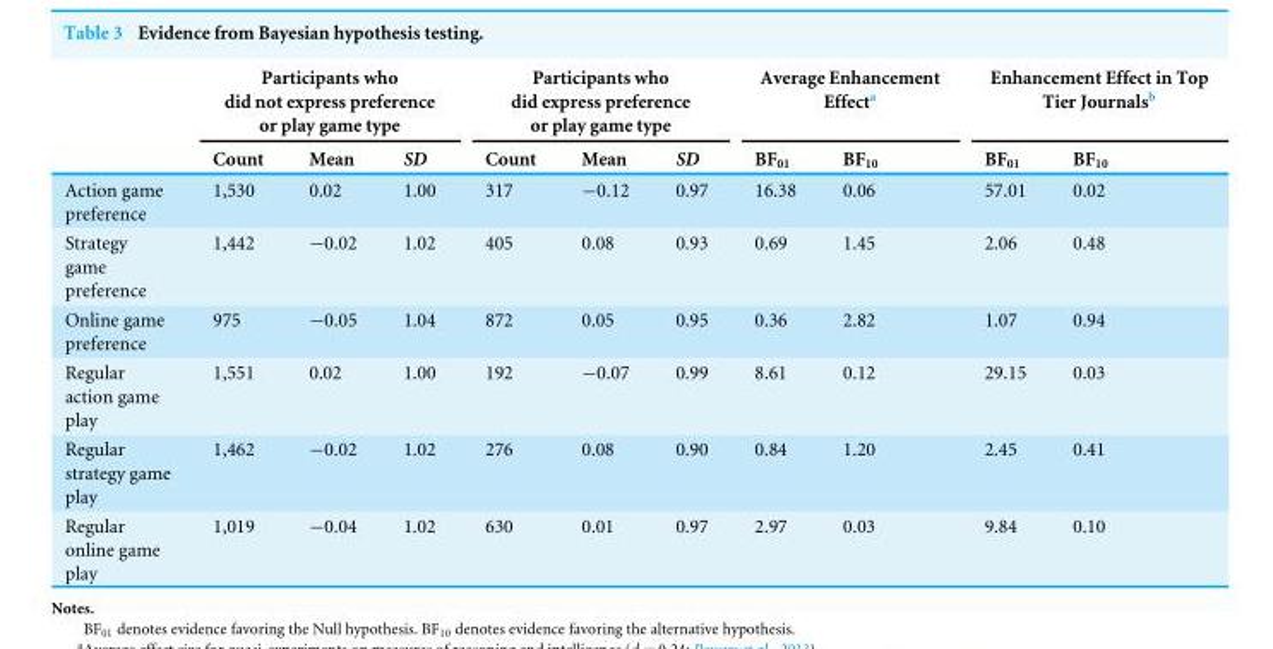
<table><thead><tr><td rowspan="2"></td><td colspan="3">Participants who did not express preference or play game type</td><td colspan="3">Participants who did express preference or play game type</td><td colspan="2">Average Enhancement Effect<sup>a</sup></td><td colspan="2">Enhancement Effect in Top Tier Journals<sup>b</sup></td></tr><tr><td>Count</td><td>Mean</td><td>SD</td><td>Count</td><td>Mean</td><td>SD</td><td>BF<sub>01</sub></td><td>BF<sub>10</sub></td><td>BF<sub>01</sub></td><td>BF<sub>10</sub></td></tr></thead><tbody><tr><td>Action game preference</td><td>1,530</td><td>0.02</td><td>1.00</td><td>317</td><td>−0.12</td><td>0.97</td><td>16.38</td><td>0.06</td><td>57.01</td><td>0.02</td></tr><tr><td>Strategy game preference</td><td>1,442</td><td>−0.02</td><td>1.02</td><td>405</td><td>0.08</td><td>0.93</td><td>0.69</td><td>1.45</td><td>2.06</td><td>0.48</td></tr><tr><td>Online game preference</td><td>975</td><td>−0.05</td><td>1.04</td><td>872</td><td>0.05</td><td>0.95</td><td>0.36</td><td>2.82</td><td>1.07</td><td>0.94</td></tr><tr><td>Regular action game play</td><td>1,551</td><td>0.02</td><td>1.00</td><td>192</td><td>−0.07</td><td>0.99</td><td>8.61</td><td>0.12</td><td>29.15</td><td>0.03</td></tr><tr><td>Regular strategy game play</td><td>1,462</td><td>−0.02</td><td>1.02</td><td>276</td><td>0.08</td><td>0.90</td><td>0.84</td><td>1.20</td><td>2.45</td><td>0.41</td></tr><tr><td>Regular online game play</td><td>1,019</td><td>−0.04</td><td>1.02</td><td>630</td><td>0.01</td><td>0.97</td><td>2.97</td><td>0.03</td><td>9.84</td><td>0.10</td></tr></tbody></table>